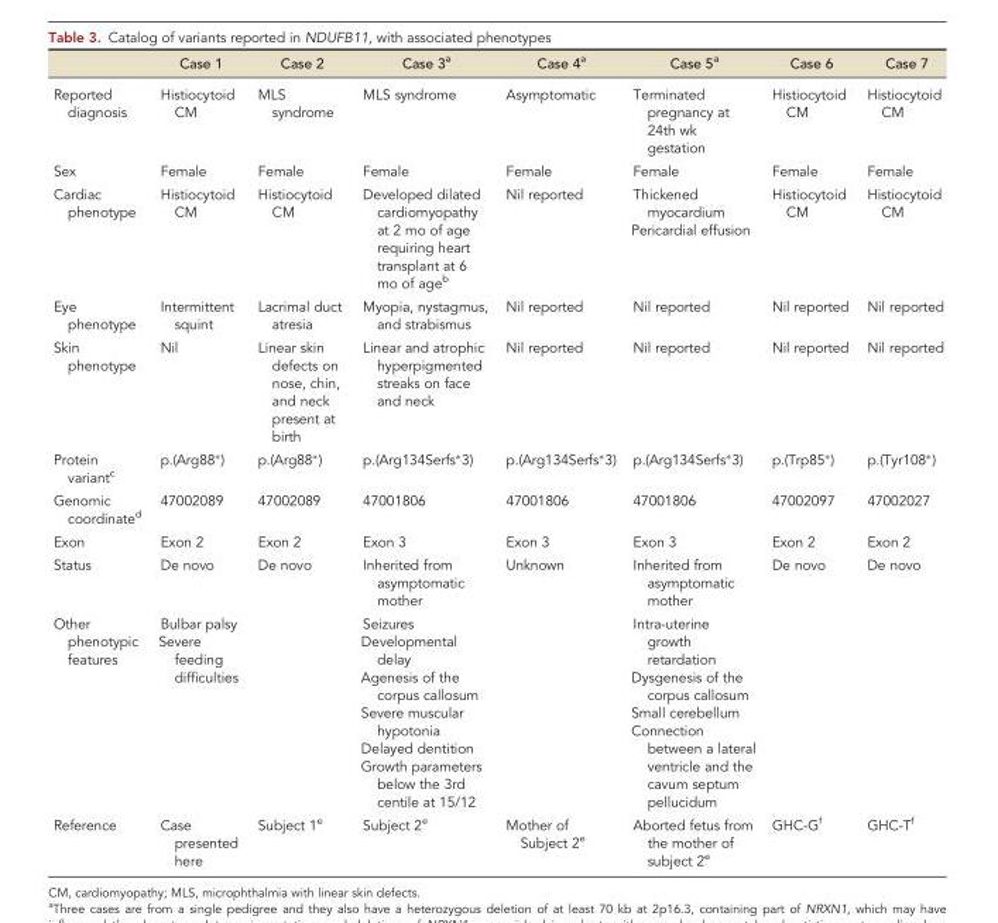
<table><thead><tr><td></td><td>Case 1</td><td>Case 2</td><td>Case 3<sup>a</sup></td><td>Case 4<sup>a</sup></td><td>Case 5<sup>a</sup></td><td>Case 6</td><td>Case 7</td></tr></thead><tbody><tr><td>Reported diagnosis</td><td>Histiocytoid CM</td><td>MLS syndrome</td><td>MLS syndrome</td><td>Asymptomatic</td><td>Terminated pregnancy at 24th wk gestation</td><td>Histiocytoid CM</td><td>Histiocytoid CM</td></tr><tr><td>Sex</td><td>Female</td><td>Female</td><td>Female</td><td>Female</td><td>Female</td><td>Female</td><td>Female</td></tr><tr><td>Cardiac phenotype</td><td>Histiocytoid CM</td><td>Histiocytoid CM</td><td>Developed dilated cardiomyopathy at 2 mo of age requiring heart transplant at 6 mo of age<sup>b</sup></td><td>Nil reported</td><td>Thickened myocardium Pericardial effusion</td><td>Histiocytoid CM</td><td>Histiocytoid CM</td></tr><tr><td>Eye phenotype</td><td>Intermittent squint</td><td>Lacrimal duct atresia</td><td>Myopia, nystagmus, and strabismus</td><td>Nil reported</td><td>Nil reported</td><td>Nil reported</td><td>Nil reported</td></tr><tr><td>Skin phenotype</td><td>Nil</td><td>Linear skin defects on nose, chin, and neck present at birth</td><td>Linear and atrophic hyperpigmented streaks on face and neck</td><td>Nil reported</td><td>Nil reported</td><td>Nil reported</td><td>Nil reported</td></tr><tr><td>Protein variant<sup>c</sup></td><td>p.(Arg88∗)</td><td>p.(Arg88∗)</td><td>p.(Arg134Serfs∗3)</td><td>p.(Arg134Serfs∗3)</td><td>p.(Arg134Serfs∗3)</td><td>p.(Trp85∗)</td><td>p.(Tyr108∗)</td></tr><tr><td>Genomic coordinate<sup>d</sup></td><td>47002089</td><td>47002089</td><td>47001806</td><td>47001806</td><td>47001806</td><td>47002097</td><td>47002027</td></tr><tr><td>Exon</td><td>Exon 2</td><td>Exon 2</td><td>Exon 3</td><td>Exon 3</td><td>Exon 3</td><td>Exon 2</td><td>Exon 2</td></tr><tr><td>Status</td><td>De novo</td><td>De novo</td><td>Inherited from asymptomatic mother</td><td>Unknown</td><td>Inherited from asymptomatic mother</td><td>De novo</td><td>De novo</td></tr><tr><td>Other phenotypic features</td><td>Bulbar palsy Severe feeding difficulties</td><td></td><td>Seizures Developmental delay Agenesis of the corpus callosum Severe muscular hypotonia Delayed dentition Growth parameters below the 3rd centile at 15/12</td><td></td><td>Intra-uterine growth retardation Dysgenesis of the corpus callosum Small cerebellum Connection between a lateral ventricle and the cavum septum pellucidum</td><td></td><td></td></tr><tr><td>Reference</td><td>Case presented here</td><td>Subject 1<sup>e</sup></td><td>Subject 2<sup>e</sup></td><td>Mother of Subject 2<sup>e</sup></td><td>Aborted fetus from the mother of subject 2<sup>e</sup></td><td>GHC-G<sup>f</sup></td><td>GHC-T<sup>f</sup></td></tr></tbody></table>